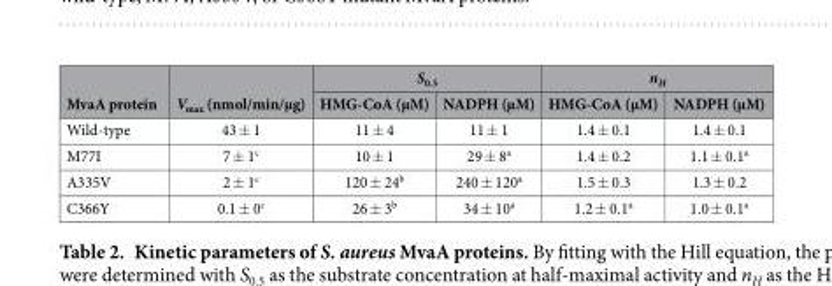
<table><thead><tr><td rowspan="2">MvaA protein</td><td rowspan="2">V<sub>max</sub> (nmol/min/μg)</td><td colspan="2">S<sub>0.5</sub></td><td colspan="2">n<sub>H</sub></td></tr><tr><td>HMG-CoA (μM)</td><td>NADPH (μM)</td><td>HMG-CoA (μM)</td><td>NADPH (μM)</td></tr></thead><tbody><tr><td>Wild-type</td><td>43 ± 1</td><td>11 ± 4</td><td>11 ± 1</td><td>1.4 ± 0.1</td><td>1.4 ± 0.1</td></tr><tr><td>M77I</td><td>7 ± 1<sup>c</sup></td><td>10 ± 1</td><td>29 ± 8<sup>a</sup></td><td>1.4 ± 0.2</td><td>1.1 ± 0.1<sup>a</sup></td></tr><tr><td>A335V</td><td>2 ± 1<sup>c</sup></td><td>120 ± 24<sup>b</sup></td><td>240 ± 120<sup>a</sup></td><td>1.5 ± 0.3</td><td>1.3 ± 0.2</td></tr><tr><td>C366Y</td><td>0.1 ± 0<sup>c</sup></td><td>26 ± 3<sup>b</sup></td><td>34 ± 10<sup>a</sup></td><td>1.2 ± 0.1<sup>a</sup></td><td>1.0 ± 0.1<sup>a</sup></td></tr></tbody></table>